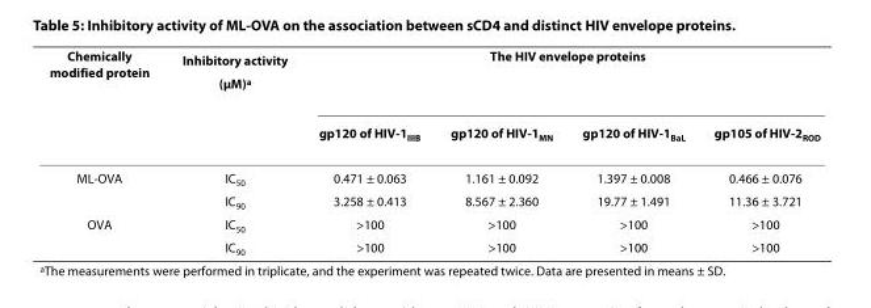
<table><thead><tr><td rowspan="2">Chemically modified protein</td><td rowspan="2">Inhibitory activity (μM)<sup>a</sup></td><td colspan="4">The HIV envelope proteins</td></tr><tr><td>gp120 of HIV-1<sub>IIIB</sub></td><td>gp120 of HIV-1<sub>MN</sub></td><td>gp120 of HIV-1<sub>BaL</sub></td><td>gp105 of HIV-2<sub>ROD</sub></td></tr></thead><tbody><tr><td rowspan="2">ML-OVA</td><td>IC<sub>50</sub></td><td>0.471 ± 0.063</td><td>1.161 ± 0.092</td><td>1.397 ± 0.008</td><td>0.466 ± 0.076</td></tr><tr><td>IC<sub>90</sub></td><td>3.258 ± 0.413</td><td>8.567 ± 2.360</td><td>19.77 ± 1.491</td><td>11.36 ± 3.721</td></tr><tr><td rowspan="2">OVA</td><td>IC<sub>50</sub></td><td>&gt;100</td><td>&gt;100</td><td>&gt;100</td><td>&gt;100</td></tr><tr><td>IC<sub>90</sub></td><td>&gt;100</td><td>&gt;100</td><td>&gt;100</td><td>&gt;100</td></tr></tbody></table>